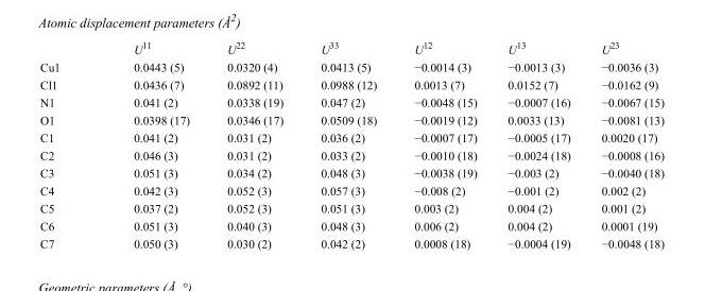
<table><thead><tr><td></td><td>U<sup>11</sup></td><td>U<sup>22</sup></td><td>U<sup>33</sup></td><td>U<sup>12</sup></td><td>U<sup>13</sup></td><td>U<sup>23</sup></td></tr></thead><tbody><tr><td>Cu1</td><td>0.0443 (5)</td><td>0.0320 (4)</td><td>0.0413 (5)</td><td>−0.0014 (3)</td><td>−0.0013 (3)</td><td>−0.0036 (3)</td></tr><tr><td>Cl1</td><td>0.0436 (7)</td><td>0.0892 (11)</td><td>0.0988 (12)</td><td>0.0013 (7)</td><td>0.0152 (7)</td><td>−0.0162 (9)</td></tr><tr><td>N1</td><td>0.041 (2)</td><td>0.0338 (19)</td><td>0.047 (2)</td><td>−0.0048 (15)</td><td>−0.0007 (16)</td><td>−0.0067 (15)</td></tr><tr><td>O1</td><td>0.0398 (17)</td><td>0.0346 (17)</td><td>0.0509 (18)</td><td>−0.0019 (12)</td><td>0.0033 (13)</td><td>−0.0081 (13)</td></tr><tr><td>C1</td><td>0.041 (2)</td><td>0.031 (2)</td><td>0.036 (2)</td><td>−0.0007 (17)</td><td>−0.0005 (17)</td><td>0.0020 (17)</td></tr><tr><td>C2</td><td>0.046 (3)</td><td>0.031 (2)</td><td>0.033 (2)</td><td>−0.0010 (18)</td><td>−0.0024 (18)</td><td>−0.0008 (16)</td></tr><tr><td>C3</td><td>0.051 (3)</td><td>0.034 (2)</td><td>0.048 (3)</td><td>−0.0038 (19)</td><td>−0.003 (2)</td><td>−0.0040 (18)</td></tr><tr><td>C4</td><td>0.042 (3)</td><td>0.052 (3)</td><td>0.057 (3)</td><td>−0.008 (2)</td><td>−0.001 (2)</td><td>0.002 (2)</td></tr><tr><td>C5</td><td>0.037 (2)</td><td>0.052 (3)</td><td>0.051 (3)</td><td>0.003 (2)</td><td>0.004 (2)</td><td>0.001 (2)</td></tr><tr><td>C6</td><td>0.051 (3)</td><td>0.040 (3)</td><td>0.048 (3)</td><td>0.006 (2)</td><td>0.004 (2)</td><td>0.0001 (19)</td></tr><tr><td>C7</td><td>0.050 (3)</td><td>0.030 (2)</td><td>0.042 (2)</td><td>0.0008 (18)</td><td>−0.0004 (19)</td><td>−0.0048 (18)</td></tr></tbody></table>